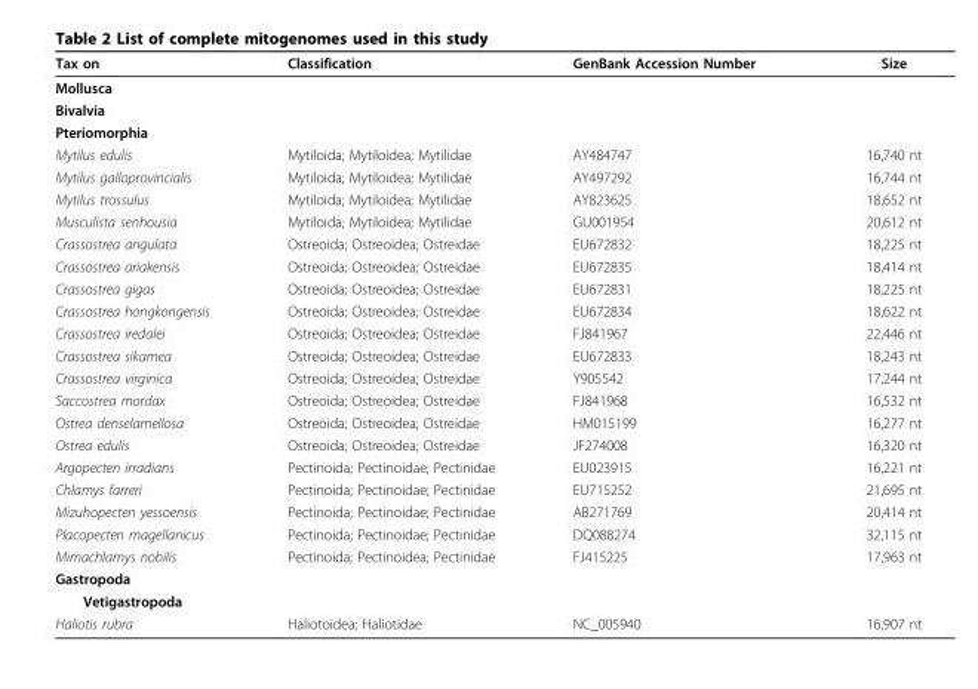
<table><thead><tr><td>Tax on</td><td>Classification</td><td>GenBank Accession Number</td><td>Size</td></tr></thead><tbody><tr><td colspan="4">Mollusca</td></tr><tr><td colspan="4">Bivalvia</td></tr><tr><td colspan="4">Pteriomorphia</td></tr><tr><td>Mytilus edulis</td><td>Mytiloida; Mytiloidea; Mytilidae</td><td>AY484747</td><td>16,740 nt</td></tr><tr><td>Mytilus galloprovincialis</td><td>Mytiloida; Mytiloidea; Mytilidae</td><td>AY497292</td><td>16,744 nt</td></tr><tr><td>Mytilus trossulus</td><td>Mytiloida; Mytiloidea; Mytilidae</td><td>AY823625</td><td>18,652 nt</td></tr><tr><td>Musculista senhousia</td><td>Mytiloida; Mytiloidea; Mytilidae</td><td>GU001954</td><td>20,612 nt</td></tr><tr><td>Crassostrea angulata</td><td>Ostreoida; Ostreoidea; Ostreidae</td><td>EU672832</td><td>18,225 nt</td></tr><tr><td>Crassostrea ariakensis</td><td>Ostreoida; Ostreoidea; Ostreidae</td><td>EU672835</td><td>18,414 nt</td></tr><tr><td>Crassostrea gigas</td><td>Ostreoida; Ostreoidea; Ostreidae</td><td>EU672831</td><td>18,225 nt</td></tr><tr><td>Crassostrea hongkongensis</td><td>Ostreoida; Ostreoidea; Ostreidae</td><td>EU672834</td><td>18,622 nt</td></tr><tr><td>Crassostrea iredalei</td><td>Ostreoida; Ostreoidea; Ostreidae</td><td>FJ841967</td><td>22,446 nt</td></tr><tr><td>Crassostrea sikamea</td><td>Ostreoida; Ostreoidea; Ostreidae</td><td>EU672833</td><td>18,243 nt</td></tr><tr><td>Crassostrea virginica</td><td>Ostreoida; Ostreoidea; Ostreidae</td><td>Y905542</td><td>17,244 nt</td></tr><tr><td>Saccostrea mordax</td><td>Ostreoida; Ostreoidea; Ostreidae</td><td>FJ841968</td><td>16,532 nt</td></tr><tr><td>Ostrea denselamellosa</td><td>Ostreoida; Ostreoidea; Ostreidae</td><td>HM015199</td><td>16,277 nt</td></tr><tr><td>Ostrea edulis</td><td>Ostreoida; Ostreoidea; Ostreidae</td><td>JF274008</td><td>16,320 nt</td></tr><tr><td>Argopecten irradians</td><td>Pectinoida; Pectinoidae; Pectinidae</td><td>EU023915</td><td>16,221 nt</td></tr><tr><td>Chlamys farreri</td><td>Pectinoida; Pectinoidae; Pectinidae</td><td>EU715252</td><td>21,695 nt</td></tr><tr><td>Mizuhopecten yessoensis</td><td>Pectinoida; Pectinoidae; Pectinidae</td><td>AB271769</td><td>20,414 nt</td></tr><tr><td>Placopecten magellanicus</td><td>Pectinoida; Pectinoidae; Pectinidae</td><td>DQ088274</td><td>32,115 nt</td></tr><tr><td>Mimachlamys nobilis</td><td>Pectinoida; Pectinoidea; Pectinidae</td><td>FJ415225</td><td>17,963 nt</td></tr><tr><td colspan="4">Gastropoda</td></tr><tr><td colspan="4">Vetigastropoda</td></tr><tr><td>Haliotis rubra</td><td>Haliotoidea; Haliotidae</td><td>NC_005940</td><td>16,907 nt</td></tr></tbody></table>